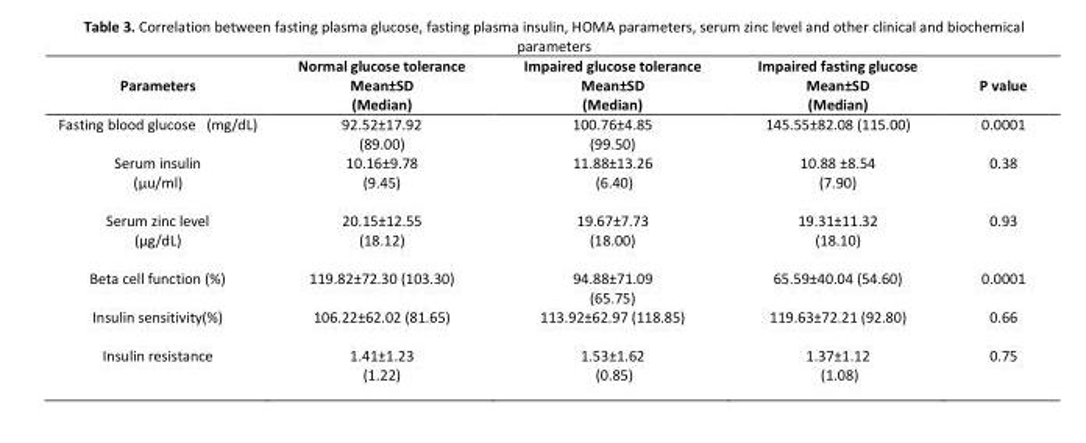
<table><thead><tr><td>Parameters</td><td>Normal glucose tolerance Mean±SD (Median)</td><td>Impaired glucose tolerance Mean±SD (Median)</td><td>Impaired fasting glucose Mean±SD (Median)</td><td>P value</td></tr></thead><tbody><tr><td>Fasting blood glucose (mg/dL)</td><td>92.52±17.92 (89.00)</td><td>100.76±4.85 (99.50)</td><td>145.55±82.08 (115.00)</td><td>0.0001</td></tr><tr><td>Serum insulin (µu/ml)</td><td>10.16±9.78 (9.45)</td><td>11.88±13.26 (6.40)</td><td>10.88 ±8.54 (7.90)</td><td>0.38</td></tr><tr><td>Serum zinc level (µg/dL)</td><td>20.15±12.55 (18.12)</td><td>19.67±7.73 (18.00)</td><td>19.31±11.32 (18.10)</td><td>0.93</td></tr><tr><td>Beta cell function (%)</td><td>119.82±72.30 (103.30)</td><td>94.88±71.09 (65.75)</td><td>65.59±40.04 (54.60)</td><td>0.0001</td></tr><tr><td>Insulin sensitivity(%)</td><td>106.22±62.02 (81.65)</td><td>113.92±62.97 (118.85)</td><td>119.63±72.21 (92.80)</td><td>0.66</td></tr><tr><td>Insulin resistance</td><td>1.41±1.23 (1.22)</td><td>1.53±1.62 (0.85)</td><td>1.37±1.12 (1.08)</td><td>0.75</td></tr></tbody></table>